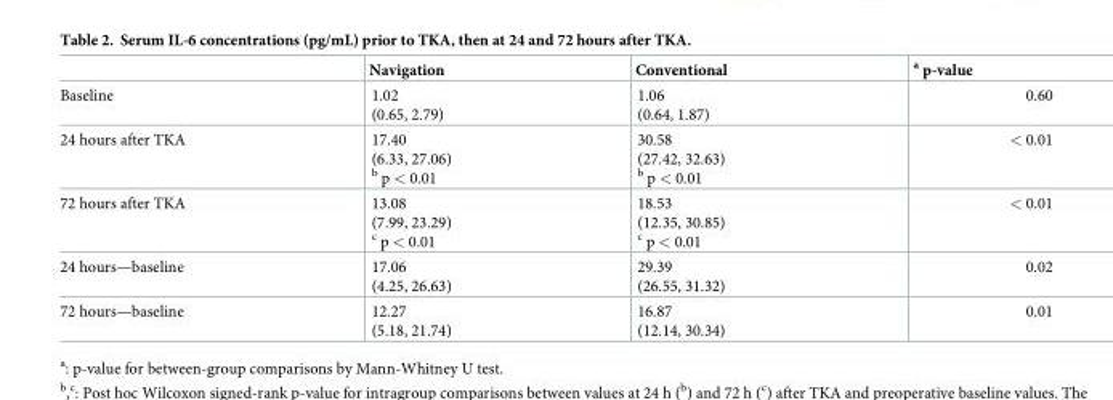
<table><thead><tr><td></td><td>Navigation</td><td>Conventional</td><td><sup>a</sup> p-value</td></tr></thead><tbody><tr><td>Baseline</td><td>1.02 (0.65, 2.79)</td><td>1.06 (0.64, 1.87)</td><td>0.60</td></tr><tr><td>24 hours after TKA</td><td>17.40 (6.33, 27.06) <sup>b</sup> p &lt; 0.01</td><td>30.58 (27.42, 32.63) <sup>b</sup> p &lt; 0.01</td><td>&lt; 0.01</td></tr><tr><td>72 hours after TKA</td><td>13.08 (7.99, 23.29) <sup>c</sup> p &lt; 0.01</td><td>18.53 (12.35, 30.85) <sup>c</sup> p &lt; 0.01</td><td>&lt; 0.01</td></tr><tr><td>24 hours—baseline</td><td>17.06 (4.25, 26.63)</td><td>29.39 (26.55, 31.32)</td><td>0.02</td></tr><tr><td>72 hours—baseline</td><td>12.27 (5.18, 21.74)</td><td>16.87 (12.14, 30.34)</td><td>0.01</td></tr></tbody></table>